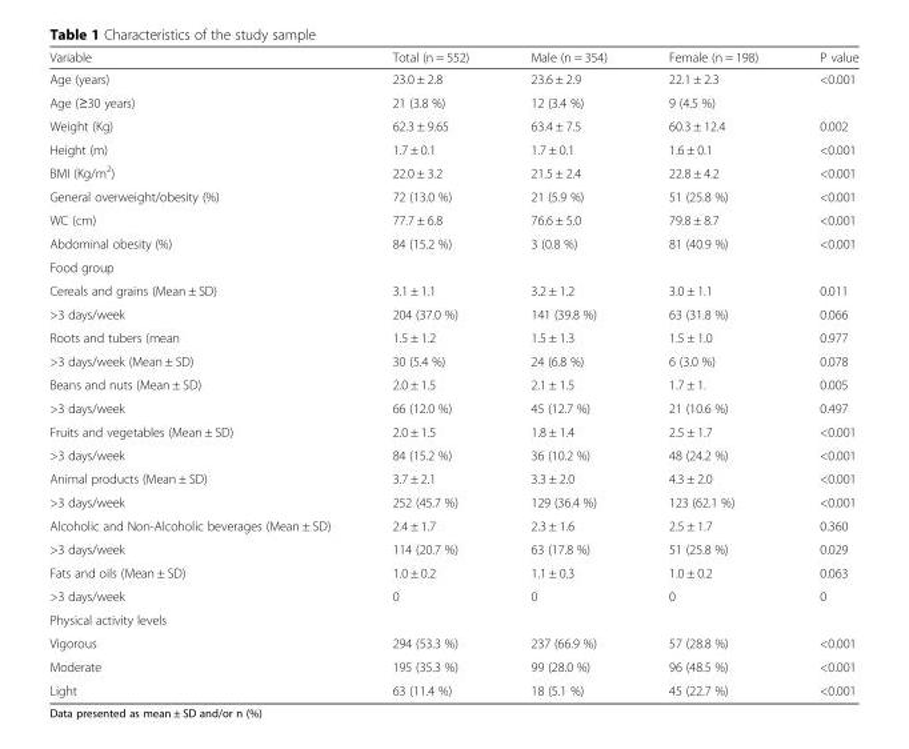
<table><thead><tr><td>Variable</td><td>Total (n = 552)</td><td>Male (n = 354)</td><td>Female (n = 198)</td><td>P value</td></tr></thead><tbody><tr><td>Age (years)</td><td>23.0 ± 2.8</td><td>23.6 ± 2.9</td><td>22.1 ± 2.3</td><td>&lt;0.001</td></tr><tr><td>Age (≥30 years)</td><td>21 (3.8 %)</td><td>12 (3.4 %)</td><td>9 (4.5 %)</td><td></td></tr><tr><td>Weight (Kg)</td><td>62.3 ± 9.65</td><td>63.4 ± 7.5</td><td>60.3 ± 12.4</td><td>0.002</td></tr><tr><td>Height (m)</td><td>1.7 ± 0.1</td><td>1.7 ± 0.1</td><td>1.6 ± 0.1</td><td>&lt;0.001</td></tr><tr><td>BMI (Kg/m<sup>2</sup>)</td><td>22.0 ± 3.2</td><td>21.5 ± 2.4</td><td>22.8 ± 4.2</td><td>&lt;0.001</td></tr><tr><td>General overweight/obesity (%)</td><td>72 (13.0 %)</td><td>21 (5.9 %)</td><td>51 (25.8 %)</td><td>&lt;0.001</td></tr><tr><td>WC (cm)</td><td>77.7 ± 6.8</td><td>76.6 ± 5.0</td><td>79.8 ± 8.7</td><td>&lt;0.001</td></tr><tr><td>Abdominal obesity (%)</td><td>84 (15.2 %)</td><td>3 (0.8 %)</td><td>81 (40.9 %)</td><td>&lt;0.001</td></tr><tr><td colspan="5">Food group</td></tr><tr><td>Cereals and grains (Mean ± SD)</td><td>3.1 ± 1.1</td><td>3.2 ± 1.2</td><td>3.0 ± 1.1</td><td>0.011</td></tr><tr><td>&gt;3 days/week</td><td>204 (37.0 %)</td><td>141 (39.8 %)</td><td>63 (31.8 %)</td><td>0.066</td></tr><tr><td>Roots and tubers (mean</td><td>1.5 ± 1.2</td><td>1.5 ± 1.3</td><td>1.5 ± 1.0</td><td>0.977</td></tr><tr><td>&gt;3 days/week (Mean ± SD)</td><td>30 (5.4 %)</td><td>24 (6.8 %)</td><td>6 (3.0 %)</td><td>0.078</td></tr><tr><td>Beans and nuts (Mean ± SD)</td><td>2.0 ± 1.5</td><td>2.1 ± 1.5</td><td>1.7 ± 1.</td><td>0.005</td></tr><tr><td>&gt;3 days/week</td><td>66 (12.0 %)</td><td>45 (12.7 %)</td><td>21 (10.6 %)</td><td>0.497</td></tr><tr><td>Fruits and vegetables (Mean ± SD)</td><td>2.0 ± 1.5</td><td>1.8 ± 1.4</td><td>2.5 ± 1.7</td><td>&lt;0.001</td></tr><tr><td>&gt;3 days/week</td><td>84 (15.2 %)</td><td>36 (10.2 %)</td><td>48 (24.2 %)</td><td>&lt;0.001</td></tr><tr><td>Animal products (Mean ± SD)</td><td>3.7 ± 2.1</td><td>3.3 ± 2.0</td><td>4.3 ± 2.0</td><td>&lt;0.001</td></tr><tr><td>&gt;3 days/week</td><td>252 (45.7 %)</td><td>129 (36.4 %)</td><td>123 (62.1 %)</td><td>&lt;0.001</td></tr><tr><td>Alcoholic and Non-Alcoholic beverages (Mean ± SD)</td><td>2.4 ± 1.7</td><td>2.3 ± 1.6</td><td>2.5 ± 1.7</td><td>0.360</td></tr><tr><td>&gt;3 days/week</td><td>114 (20.7 %)</td><td>63 (17.8 %)</td><td>51 (25.8 %)</td><td>0.029</td></tr><tr><td>Fats and oils (Mean ± SD)</td><td>1.0 ± 0.2</td><td>1.1 ± 0.3</td><td>1.0 ± 0.2</td><td>0.063</td></tr><tr><td>&gt;3 days/week</td><td>0</td><td>0</td><td>0</td><td>0</td></tr><tr><td colspan="5">Physical activity levels</td></tr><tr><td>Vigorous</td><td>294 (53.3 %)</td><td>237 (66.9 %)</td><td>57 (28.8 %)</td><td>&lt;0.001</td></tr><tr><td>Moderate</td><td>195 (35.3 %)</td><td>99 (28.0 %)</td><td>96 (48.5 %)</td><td>&lt;0.001</td></tr><tr><td>Light</td><td>63 (11.4 %)</td><td>18 (5.1 %)</td><td>45 (22.7 %)</td><td>&lt;0.001</td></tr></tbody></table>